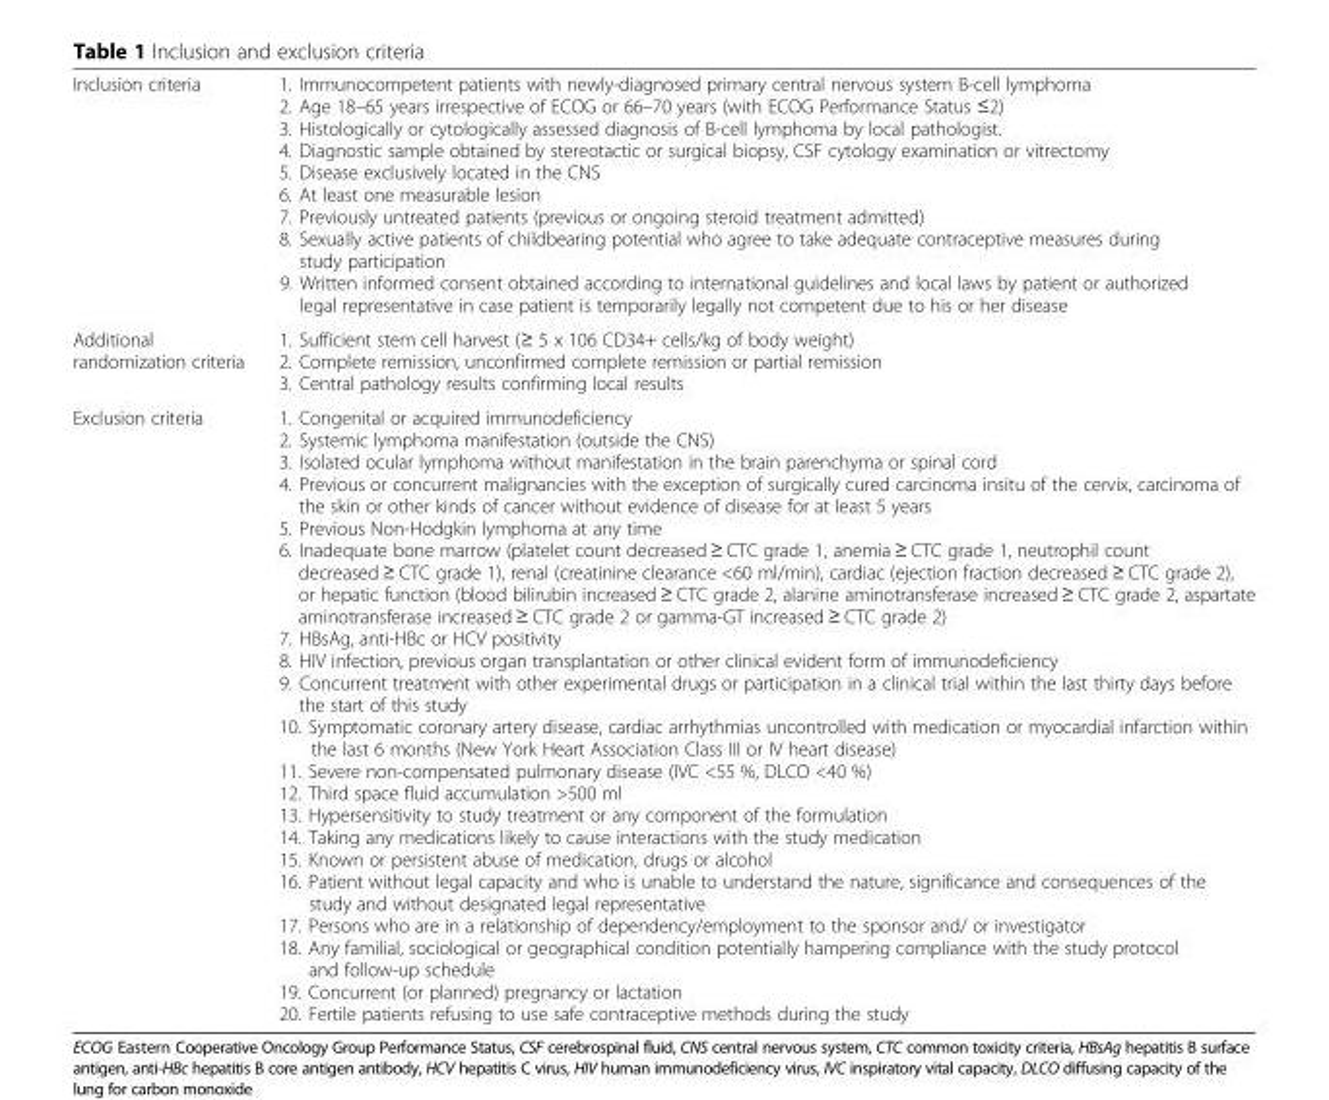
<table><tbody><tr><td>Inclusion criteria</td><td>1. Immunocompetent patients with newly-diagnosed primary central nervous system B-cell lymphoma 2. Age 18–65 years irrespective of ECOG or 66–70 years (with ECOG Performance Status ≤2) 3. Histologically or cytologically assessed diagnosis of B-cell lymphoma by local pathologist. 4. Diagnostic sample obtained by stereotactic or surgical biopsy, CSF cytology examination or vitrectomy 5. Disease exclusively located in the CNS 6. At least one measurable lesion 7. Previously untreated patients (previous or ongoing steroid treatment admitted) 8. Sexually active patients of childbearing potential who agree to take adequate contraceptive measures during study participation 9. Written informed consent obtained according to international guidelines and local laws by patient or authorized legal representative in case patient is temporarily legally not competent due to his or her disease</td></tr><tr><td>Additional randomization criteria</td><td>1. Sufficient stem cell harvest (≥ 5 x 106 CD34+ cells/kg of body weight) 2. Complete remission, unconfirmed complete remission or partial remission 3. Central pathology results confirming local results</td></tr><tr><td>Exclusion criteria</td><td>1. Congenital or acquired immunodeficiency 2. Systemic lymphoma manifestation (outside the CNS) 3. Isolated ocular lymphoma without manifestation in the brain parenchyma or spinal cord 4. Previous or concurrent malignancies with the exception of surgically cured carcinoma insitu of the cervix, carcinoma of the skin or other kinds of cancer without evidence of disease for at least 5 years 5. Previous Non-Hodgkin lymphoma at any time 6. Inadequate bone marrow (platelet count decreased ≥ CTC grade 1, anemia ≥ CTC grade 1, neutrophil count decreased ≥ CTC grade 1), renal (creatinine clearance &lt;60 ml/min), cardiac (ejection fraction decreased ≥ CTC grade 2), or hepatic function (blood bilirubin increased ≥ CTC grade 2, alanine aminotransferase increased ≥ CTC grade 2, aspartate aminotransferase increased ≥ CTC grade 2 or gamma-GT increased ≥ CTC grade 2) 7. HBsAg, anti-HBc or HCV positivity 8. HIV infection, previous organ transplantation or other clinical evident form of immunodeficiency 9. Concurrent treatment with other experimental drugs or participation in a clinical trial within the last thirty days before the start of this study 10. Symptomatic coronary artery disease, cardiac arrhythmias uncontrolled with medication or myocardial infarction within the last 6 months (New York Heart Association Class III or IV heart disease) 11. Severe non-compensated pulmonary disease (IVC &lt;55 %, DLCO &lt;40 %) 12. Third space fluid accumulation &gt;500 ml 13. Hypersensitivity to study treatment or any component of the formulation 14. Taking any medications likely to cause interactions with the study medication 15. Known or persistent abuse of medication, drugs or alcohol 16. Patient without legal capacity and who is unable to understand the nature, significance and consequences of the study and without designated legal representative 17. Persons who are in a relationship of dependency/employment to the sponsor and/ or investigator 18. Any familial, sociological or geographical condition potentially hampering compliance with the study protocol and follow-up schedule 19. Concurrent (or planned) pregnancy or lactation 20. Fertile patients refusing to use safe contraceptive methods during the study</td></tr></tbody></table>